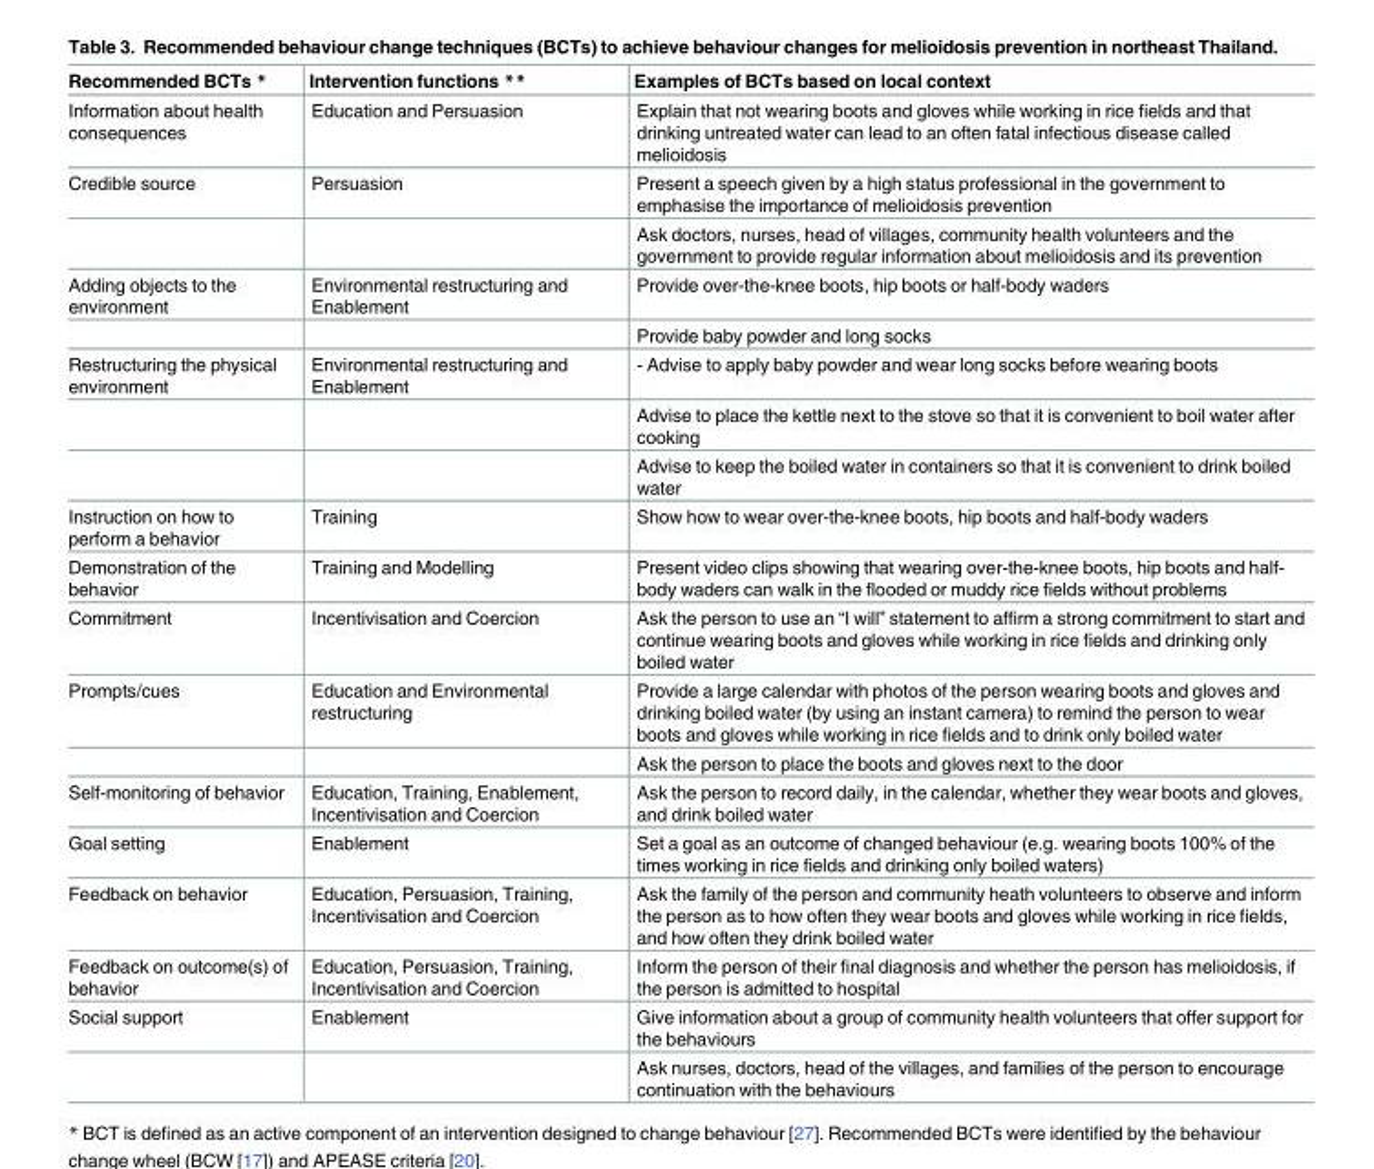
<table><thead><tr><td>Recommended BCTs *</td><td>Intervention functions **</td><td>Examples of BCTs based on local context</td></tr></thead><tbody><tr><td>Information about health consequences</td><td>Education and Persuasion</td><td>Explain that not wearing boots and gloves while working in rice fields and that drinking untreated water can lead to an often fatal infectious disease called melioidosis</td></tr><tr><td rowspan="2">Credible source</td><td>Persuasion</td><td>Present a speech given by a high status professional in the government to emphasise the importance of melioidosis prevention</td></tr><tr><td></td><td>Ask doctors, nurses, head of villages, community health volunteers and the government to provide regular information about melioidosis and its prevention</td></tr><tr><td rowspan="2">Adding objects to the environment</td><td>Environmental restructuring and Enablement</td><td>Provide over-the-knee boots, hip boots or half-body waders</td></tr><tr><td></td><td>Provide baby powder and long socks</td></tr><tr><td rowspan="3">Restructuring the physical environment</td><td>Environmental restructuring and Enablement</td><td>- Advise to apply baby powder and wear long socks before wearing boots</td></tr><tr><td></td><td>Advise to place the kettle next to the stove so that it is convenient to boil water after cooking</td></tr><tr><td></td><td>Advise to keep the boiled water in containers so that it is convenient to drink boiled water</td></tr><tr><td>Instruction on how to perform a behavior</td><td>Training</td><td>Show how to wear over-the-knee boots, hip boots and half-body waders</td></tr><tr><td>Demonstration of the behavior</td><td>Training and Modelling</td><td>Present video clips showing that wearing over-the-knee boots, hip boots and half- body waders can walk in the flooded or muddy rice fields without problems</td></tr><tr><td>Commitment</td><td>Incentivisation and Coercion</td><td>Ask the person to use an “I will” statement to affirm a strong commitment to start and continue wearing boots and gloves while working in rice fields and drinking only boiled water</td></tr><tr><td rowspan="2">Prompts/cues</td><td>Education and Environmental restructuring</td><td>Provide a large calendar with photos of the person wearing boots and gloves and drinking boiled water (by using an instant camera) to remind the person to wear boots and gloves while working in rice fields and to drink only boiled water</td></tr><tr><td></td><td>Ask the person to place the boots and gloves next to the door</td></tr><tr><td>Self-monitoring of behavior</td><td>Education, Training, Enablement, Incentivisation and Coercion</td><td>Ask the person to record daily, in the calendar, whether they wear boots and gloves, and drink boiled water</td></tr><tr><td>Goal setting</td><td>Enablement</td><td>Set a goal as an outcome of changed behaviour (e.g. wearing boots 100% of the times working in rice fields and drinking only boiled waters)</td></tr><tr><td>Feedback on behavior</td><td>Education, Persuasion, Training, Incentivisation and Coercion</td><td>Ask the family of the person and community heath volunteers to observe and inform the person as to how often they wear boots and gloves while working in rice fields, and how often they drink boiled water</td></tr><tr><td>Feedback on outcome(s) of behavior</td><td>Education, Persuasion, Training, Incentivisation and Coercion</td><td>Inform the person of their final diagnosis and whether the person has melioidosis, if the person is admitted to hospital</td></tr><tr><td rowspan="2">Social support</td><td>Enablement</td><td>Give information about a group of community health volunteers that offer support for the behaviours</td></tr><tr><td></td><td>Ask nurses, doctors, head of the villages, and families of the person to encourage continuation with the behaviours</td></tr></tbody></table>